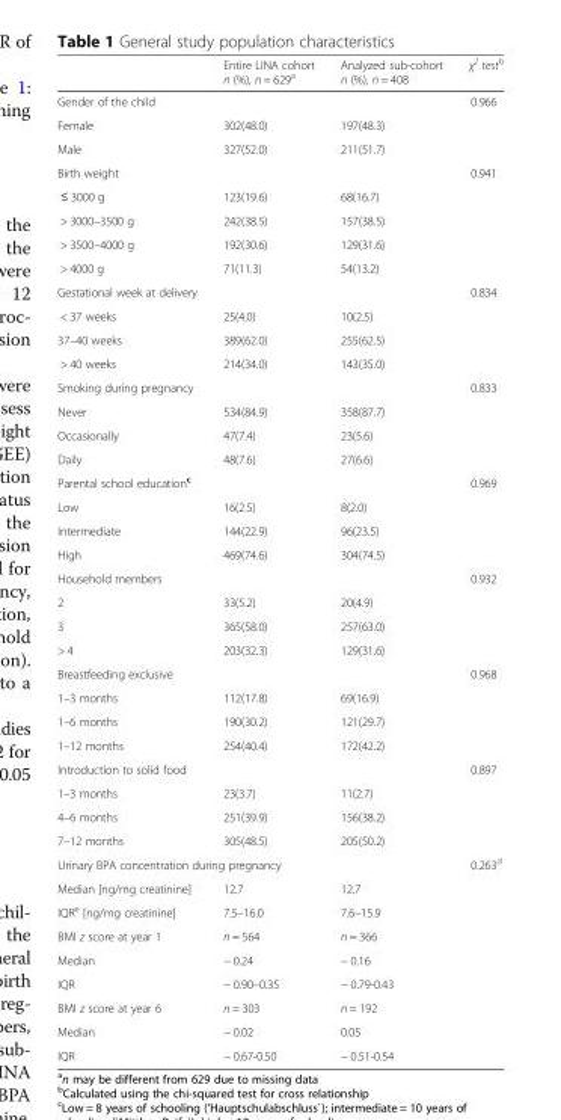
<table><thead><tr><td></td><td>Entire LINA cohort n (%), n = 629<sup>a</sup></td><td>Analyzed sub-cohort n (%), n = 408</td><td>χ<sup>2</sup> test<sup>b</sup></td></tr></thead><tbody><tr><td>Gender of the child</td><td></td><td></td><td>0.966</td></tr><tr><td>Female</td><td>302(48.0)</td><td>197(48.3)</td><td></td></tr><tr><td>Male</td><td>327(52.0)</td><td>211(51.7)</td><td></td></tr><tr><td>Birth weight</td><td></td><td></td><td>0.941</td></tr><tr><td>≤ 3000 g</td><td>123(19.6)</td><td>68(16.7)</td><td></td></tr><tr><td>&gt; 3000–3500 g</td><td>242(38.5)</td><td>157(38.5)</td><td></td></tr><tr><td>&gt; 3500–4000 g</td><td>192(30.6)</td><td>129(31.6)</td><td></td></tr><tr><td>&gt; 4000 g</td><td>71(11.3)</td><td>54(13.2)</td><td></td></tr><tr><td>Gestational week at delivery</td><td></td><td></td><td>0.834</td></tr><tr><td>&lt; 37 weeks</td><td>25(4.0)</td><td>10(2.5)</td><td></td></tr><tr><td>37–40 weeks</td><td>389(62.0)</td><td>255(62.5)</td><td></td></tr><tr><td>&gt; 40 weeks</td><td>214(34.0)</td><td>143(35.0)</td><td></td></tr><tr><td>Smoking during pregnancy</td><td></td><td></td><td>0.833</td></tr><tr><td>Never</td><td>534(84.9)</td><td>358(87.7)</td><td></td></tr><tr><td>Occasionally</td><td>47(7.4)</td><td>23(5.6)</td><td></td></tr><tr><td>Daily</td><td>48(7.6)</td><td>27(6.6)</td><td></td></tr><tr><td>Parental school education<sup>c</sup></td><td></td><td></td><td>0.969</td></tr><tr><td>Low</td><td>16(2.5)</td><td>8(2.0)</td><td></td></tr><tr><td>Intermediate</td><td>144(22.9)</td><td>96(23.5)</td><td></td></tr><tr><td>High</td><td>469(74.6)</td><td>304(74.5)</td><td></td></tr><tr><td>Household members</td><td></td><td></td><td>0.932</td></tr><tr><td>2</td><td>33(5.2)</td><td>20(4.9)</td><td></td></tr><tr><td>3</td><td>365(58.0)</td><td>257(63.0)</td><td></td></tr><tr><td>&gt; 4</td><td>203(32.3)</td><td>129(31.6)</td><td></td></tr><tr><td>Breastfeeding exclusive</td><td></td><td></td><td>0.968</td></tr><tr><td>1–3 months</td><td>112(17.8)</td><td>69(16.9)</td><td></td></tr><tr><td>1–6 months</td><td>190(30.2)</td><td>121(29.7)</td><td></td></tr><tr><td>1–12 months</td><td>254(40.4)</td><td>172(42.2)</td><td></td></tr><tr><td>Introduction to solid food</td><td></td><td></td><td>0.897</td></tr><tr><td>1–3 months</td><td>23(3.7)</td><td>11(2.7)</td><td></td></tr><tr><td>4–6 months</td><td>251(39.9)</td><td>156(38.2)</td><td></td></tr><tr><td>7–12 months</td><td>305(48.5)</td><td>205(50.2)</td><td></td></tr><tr><td colspan="3">Urinary BPA concentration during pregnancy</td><td>0.263<sup>d</sup></td></tr><tr><td>Median [ng/mg creatinine]</td><td>12.7</td><td>12.7</td><td></td></tr><tr><td>IQR<sup>e</sup> [ng/mg creatinine]</td><td>7.5–16.0</td><td>7.6–15.9</td><td></td></tr><tr><td>BMI z score at year 1</td><td>n = 564</td><td>n = 366</td><td></td></tr><tr><td>Median</td><td>− 0.24</td><td>− 0.16</td><td></td></tr><tr><td>IQR</td><td>− 0.90–0.35</td><td>− 0.79-0.43</td><td></td></tr><tr><td>BMI z score at year 6</td><td>n = 303</td><td>n = 192</td><td></td></tr><tr><td>Median</td><td>− 0.02</td><td>0.05</td><td></td></tr><tr><td>IQR</td><td>− 0.67-0.50</td><td>− 0.51-0.54</td><td></td></tr></tbody></table>